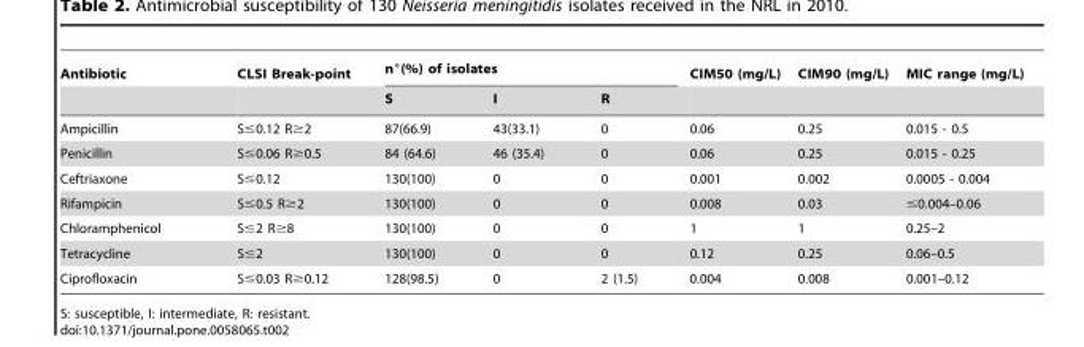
<table><thead><tr><td rowspan="2">Antibiotic</td><td rowspan="2">CLSI Break-point</td><td colspan="3">n°(%) of isolates</td><td rowspan="2">CIM50 (mg/L)</td><td rowspan="2">CIM90 (mg/L)</td><td rowspan="2">MIC range (mg/L)</td></tr><tr><td>S</td><td>I</td><td>R</td></tr></thead><tbody><tr><td>Ampicillin</td><td>S≤0.12 R≥2</td><td>87(66.9)</td><td>43(33.1)</td><td>0</td><td>0.06</td><td>0.25</td><td>0.015 - 0.5</td></tr><tr><td>Penicillin</td><td>S≤0.06 R≥0.5</td><td>84 (64.6)</td><td>46 (35.4)</td><td>0</td><td>0.06</td><td>0.25</td><td>0.015 - 0.25</td></tr><tr><td>Ceftriaxone</td><td>S≤0.12</td><td>130(100)</td><td>0</td><td>0</td><td>0.001</td><td>0.002</td><td>0.0005 - 0.004</td></tr><tr><td>Rifampicin</td><td>S≤0.5 R≥2</td><td>130(100)</td><td>0</td><td>0</td><td>0.008</td><td>0.03</td><td>≤0.004–0.06</td></tr><tr><td>Chloramphenicol</td><td>S≤2 R≥8</td><td>130(100)</td><td>0</td><td>0</td><td>1</td><td>1</td><td>0.25–2</td></tr><tr><td>Tetracycline</td><td>S≤2</td><td>130(100)</td><td>0</td><td>0</td><td>0.12</td><td>0.25</td><td>0.06–0.5</td></tr><tr><td>Ciprofloxacin</td><td>S≤0.03 R≥0.12</td><td>128(98.5)</td><td>0</td><td>2 (1.5)</td><td>0.004</td><td>0.008</td><td>0.001–0.12</td></tr></tbody></table>